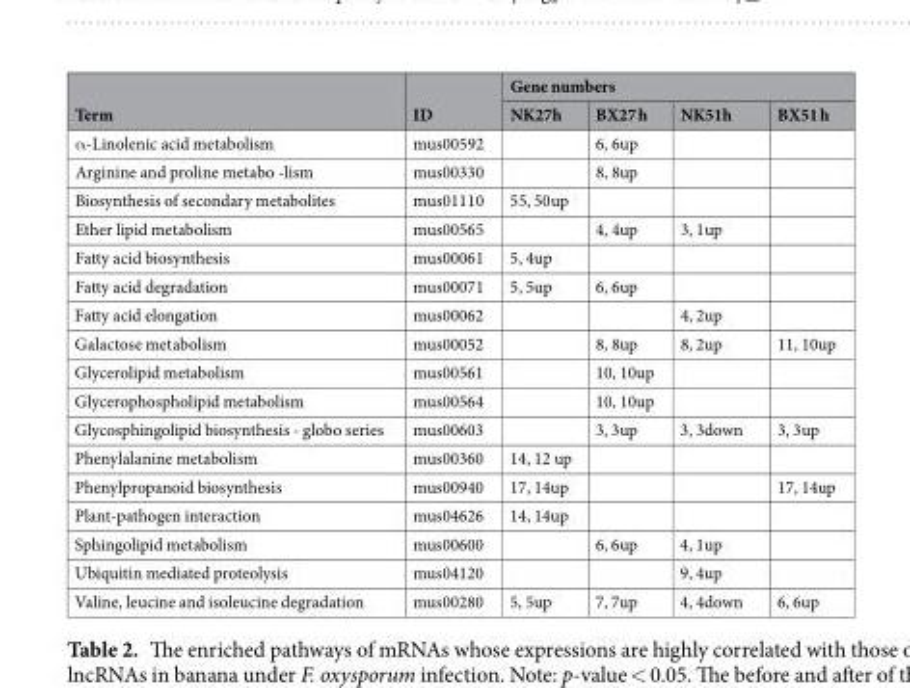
<table><thead><tr><td rowspan="2">Term</td><td rowspan="2">ID</td><td colspan="4">Gene numbers</td></tr><tr><td>NK27h</td><td>BX27 h</td><td>NK51h</td><td>BX51 h</td></tr></thead><tbody><tr><td>α-Linolenic acid metabolism</td><td>mus00592</td><td></td><td>6, 6up</td><td></td><td></td></tr><tr><td>Arginine and proline metabo -lism</td><td>mus00330</td><td></td><td>8, 8up</td><td></td><td></td></tr><tr><td>Biosynthesis of secondary metabolites</td><td>mus01110</td><td>55, 50up</td><td></td><td></td><td></td></tr><tr><td>Ether lipid metabolism</td><td>mus00565</td><td></td><td>4, 4up</td><td>3, 1up</td><td></td></tr><tr><td>Fatty acid biosynthesis</td><td>mus00061</td><td>5, 4up</td><td></td><td></td><td></td></tr><tr><td>Fatty acid degradation</td><td>mus00071</td><td>5, 5up</td><td>6, 6up</td><td></td><td></td></tr><tr><td>Fatty acid elongation</td><td>mus00062</td><td></td><td></td><td>4, 2up</td><td></td></tr><tr><td>Galactose metabolism</td><td>mus00052</td><td></td><td>8, 8up</td><td>8, 2up</td><td>11, 10up</td></tr><tr><td>Glycerolipid metabolism</td><td>mus00561</td><td></td><td>10, 10up</td><td></td><td></td></tr><tr><td>Glycerophospholipid metabolism</td><td>mus00564</td><td></td><td>10, 10up</td><td></td><td></td></tr><tr><td>Glycosphingolipid biosynthesis - globo series</td><td>mus00603</td><td></td><td>3, 3up</td><td>3, 3down</td><td>3, 3up</td></tr><tr><td>Phenylalanine metabolism</td><td>mus00360</td><td>14, 12 up</td><td></td><td></td><td></td></tr><tr><td>Phenylpropanoid biosynthesis</td><td>mus00940</td><td>17, 14up</td><td></td><td></td><td>17, 14up</td></tr><tr><td>Plant-pathogen interaction</td><td>mus04626</td><td>14, 14up</td><td></td><td></td><td></td></tr><tr><td>Sphingolipid metabolism</td><td>mus00600</td><td></td><td>6, 6up</td><td>4, 1up</td><td></td></tr><tr><td>Ubiquitin mediated proteolysis</td><td>mus04120</td><td></td><td></td><td>9, 4up</td><td></td></tr><tr><td>Valine, leucine and isoleucine degradation</td><td>mus00280</td><td>5, 5up</td><td>7, 7up</td><td>4, 4down</td><td>6, 6up</td></tr></tbody></table>